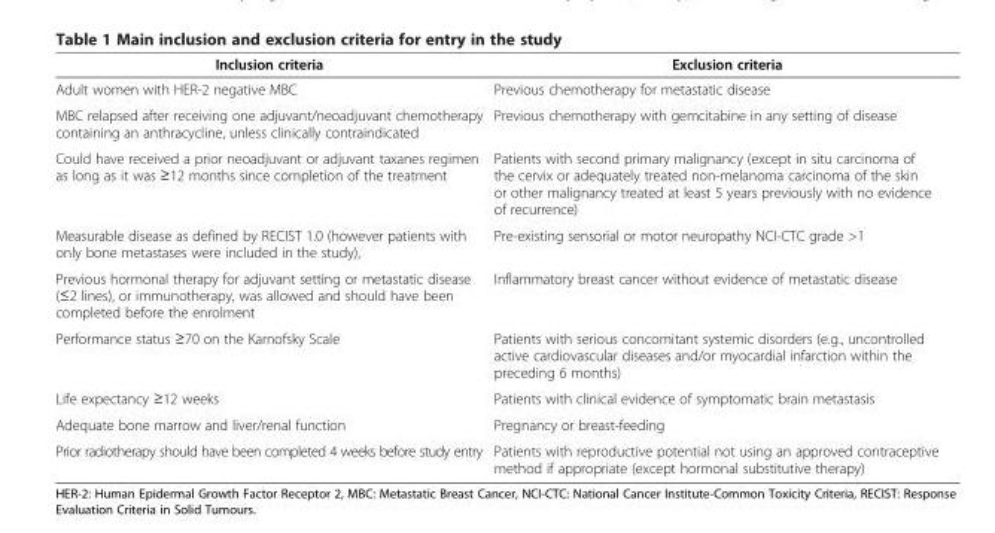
<table><thead><tr><td>Inclusion criteria</td><td>Exclusion criteria</td></tr></thead><tbody><tr><td>Adult women with HER-2 negative MBC</td><td>Previous chemotherapy for metastatic disease</td></tr><tr><td>MBC relapsed after receiving one adjuvant/neoadjuvant chemotherapy containing an anthracycline, unless clinically contraindicated</td><td>Previous chemotherapy with gemcitabine in any setting of disease</td></tr><tr><td>Could have received a prior neoadjuvant or adjuvant taxanes regimen as long as it was ≥12 months since completion of the treatment</td><td>Patients with second primary malignancy (except in situ carcinoma of the cervix or adequately treated non-melanoma carcinoma of the skin or other malignancy treated at least 5 years previously with no evidence of recurrence)</td></tr><tr><td>Measurable disease as defined by RECIST 1.0 (however patients with only bone metastases were included in the study),</td><td>Pre-existing sensorial or motor neuropathy NCI-CTC grade &gt;1</td></tr><tr><td>Previous hormonal therapy for adjuvant setting or metastatic disease (≤2 lines), or immunotherapy, was allowed and should have been completed before the enrolment</td><td>Inflammatory breast cancer without evidence of metastatic disease</td></tr><tr><td>Performance status ≥70 on the Karnofsky Scale</td><td>Patients with serious concomitant systemic disorders (e.g., uncontrolled active cardiovascular diseases and/or myocardial infarction within the preceding 6 months)</td></tr><tr><td>Life expectancy ≥12 weeks</td><td>Patients with clinical evidence of symptomatic brain metastasis</td></tr><tr><td>Adequate bone marrow and liver/renal function</td><td>Pregnancy or breast-feeding</td></tr><tr><td>Prior radiotherapy should have been completed 4 weeks before study entry</td><td>Patients with reproductive potential not using an approved contraceptive method if appropriate (except hormonal substitutive therapy)</td></tr></tbody></table>